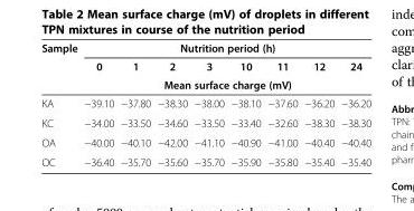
<table><thead><tr><td rowspan="3">Sample</td><td colspan="8">Nutrition period (h)</td></tr><tr><td>0</td><td>1</td><td>2</td><td>3</td><td>10</td><td>11</td><td>12</td><td>24</td></tr><tr><td colspan="8">Mean surface charge (mV)</td></tr></thead><tbody><tr><td>KA</td><td>−39.10</td><td>−37.80</td><td>−38.30</td><td>−38.00</td><td>−38.10</td><td>−37.60</td><td>−36.20</td><td>−36.20</td></tr><tr><td>KC</td><td>−34.00</td><td>−33.50</td><td>−34.60</td><td>−33.50</td><td>−33.40</td><td>−32.60</td><td>−38.30</td><td>−38.30</td></tr><tr><td>OA</td><td>−40.00</td><td>−40.10</td><td>−42.00</td><td>−41.10</td><td>−40.90</td><td>−41.00</td><td>−40.40</td><td>−40.40</td></tr><tr><td>OC</td><td>−36.40</td><td>−35.70</td><td>−35.60</td><td>−35.70</td><td>−35.90</td><td>−35.80</td><td>−35.40</td><td>−35.40</td></tr></tbody></table>